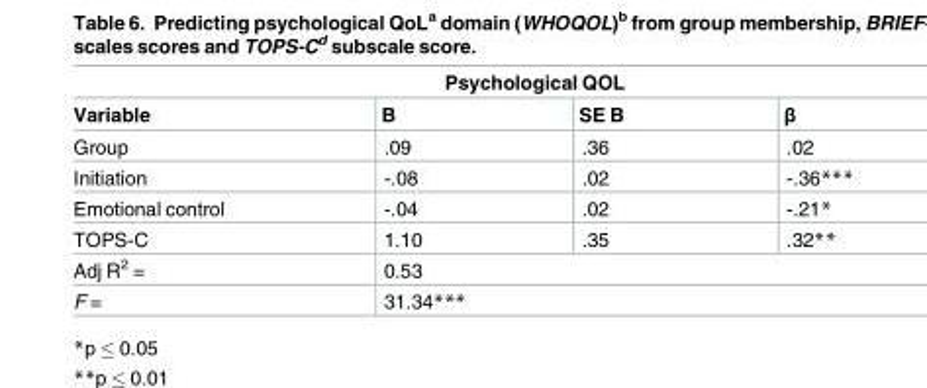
<table><thead><tr><td colspan="4">Psychological QOL</td></tr><tr><td>Variable</td><td>B</td><td>SE B</td><td>β</td></tr></thead><tbody><tr><td>Group</td><td>.09</td><td>.36</td><td>.02</td></tr><tr><td>Initiation</td><td>-.08</td><td>.02</td><td>-.36***</td></tr><tr><td>Emotional control</td><td>-.04</td><td>.02</td><td>-.21*</td></tr><tr><td>TOPS-C</td><td>1.10</td><td>.35</td><td>.32**</td></tr><tr><td>Adj R<sup>2</sup> =</td><td colspan="3">0.53</td></tr><tr><td>F =</td><td colspan="3">31.34***</td></tr></tbody></table>